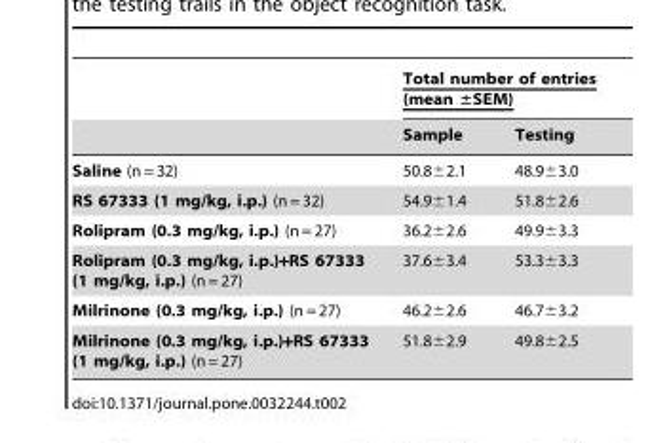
<table><thead><tr><td rowspan="2"></td><td colspan="2">Total number of entries (mean ±SEM)</td></tr><tr><td>Sample</td><td>Testing</td></tr></thead><tbody><tr><td>Saline (n = 32)</td><td>50.8±2.1</td><td>48.9±3.0</td></tr><tr><td>RS 67333 (1 mg/kg, i.p.) (n = 32)</td><td>54.9±1.4</td><td>51.8±2.6</td></tr><tr><td>Rolipram (0.3 mg/kg, i.p.) (n = 27)</td><td>36.2±2.6</td><td>49.9±3.3</td></tr><tr><td>Rolipram (0.3 mg/kg, i.p.)+RS 67333 (1 mg/kg, i.p.) (n = 27)</td><td>37.6±3.4</td><td>53.3±3.3</td></tr><tr><td>Milrinone (0.3 mg/kg, i.p.) (n = 27)</td><td>46.2±2.6</td><td>46.7±3.2</td></tr><tr><td>Milrinone (0.3 mg/kg, i.p.)+RS 67333 (1 mg/kg, i.p.) (n = 27)</td><td>51.8±2.9</td><td>49.8±2.5</td></tr></tbody></table>